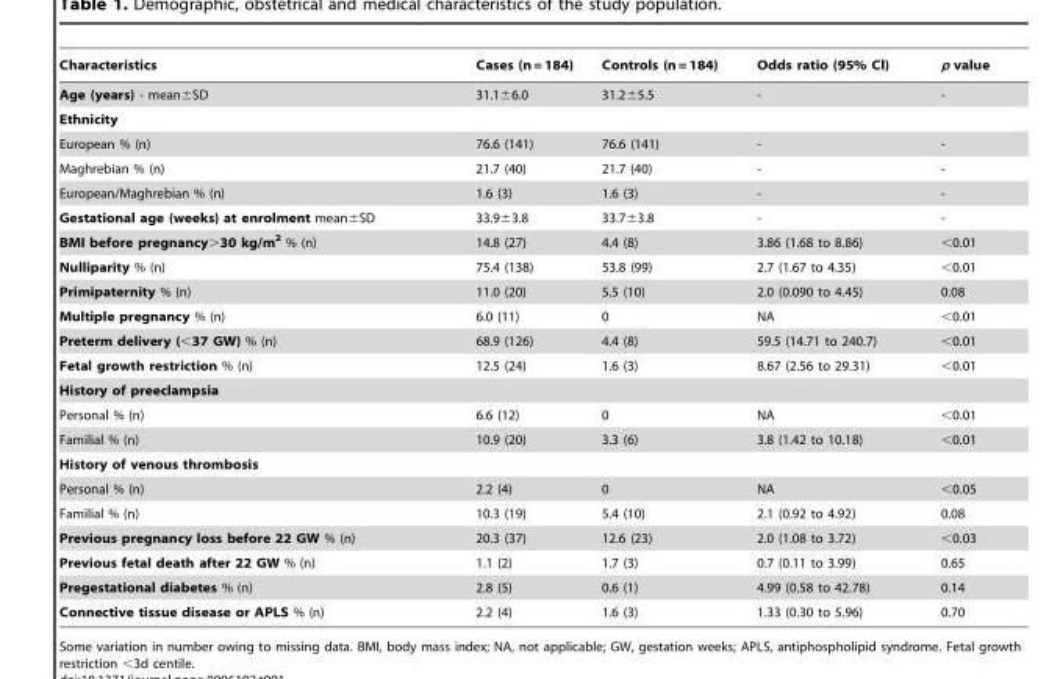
<table><thead><tr><td>Characteristics</td><td>Cases (n = 184)</td><td>Controls (n = 184)</td><td>Odds ratio (95% Cl)</td><td>p value</td></tr></thead><tbody><tr><td>Age (years) - mean±SD</td><td>31.1±6.0</td><td>31.2±5.5</td><td>-</td><td>-</td></tr><tr><td colspan="5">Ethnicity</td></tr><tr><td>European % (n)</td><td>76.6 (141)</td><td>76.6 (141)</td><td>-</td><td>-</td></tr><tr><td>Maghrebian % (n)</td><td>21.7 (40)</td><td>21.7 (40)</td><td>-</td><td>-</td></tr><tr><td>European/Maghrebian % (n)</td><td>1.6 (3)</td><td>1.6 (3)</td><td>-</td><td>-</td></tr><tr><td>Gestational age (weeks) at enrolment mean±SD</td><td>33.9±3.8</td><td>33.7±3.8</td><td>-</td><td>-</td></tr><tr><td>BMI before pregnancy&gt;30 kg/m<sup>2</sup> % (n)</td><td>14.8 (27)</td><td>4.4 (8)</td><td>3.86 (1.68 to 8.86)</td><td>&lt;0.01</td></tr><tr><td>Nulliparity % (n)</td><td>75.4 (138)</td><td>53.8 (99)</td><td>2.7 (1.67 to 4.35)</td><td>&lt;0.01</td></tr><tr><td>Primipaternity % (n)</td><td>11.0 (20)</td><td>5.5 (10)</td><td>2.0 (0.090 to 4.45)</td><td>0.08</td></tr><tr><td>Multiple pregnancy % (n)</td><td>6.0 (11)</td><td>0</td><td>NA</td><td>&lt;0.01</td></tr><tr><td>Preterm delivery (&lt;37 GW) % (n)</td><td>68.9 (126)</td><td>4.4 (8)</td><td>59.5 (14.71 to 240.7)</td><td>&lt;0.01</td></tr><tr><td>Fetal growth restriction % (n)</td><td>12.5 (24)</td><td>1.6 (3)</td><td>8.67 (2.56 to 29.31)</td><td>&lt;0.01</td></tr><tr><td colspan="5">History of preeclampsia</td></tr><tr><td>Personal % (n)</td><td>6.6 (12)</td><td>0</td><td>NA</td><td>&lt;0.01</td></tr><tr><td>Familial % (n)</td><td>10.9 (20)</td><td>3.3 (6)</td><td>3.8 (1.42 to 10.18)</td><td>&lt;0.01</td></tr><tr><td colspan="5">History of venous thrombosis</td></tr><tr><td>Personal % (n)</td><td>2.2 (4)</td><td>0</td><td>NA</td><td>&lt;0.05</td></tr><tr><td>Familial % (n)</td><td>10.3 (19)</td><td>5.4 (10)</td><td>2.1 (0.92 to 4.92)</td><td>0.08</td></tr><tr><td>Previous pregnancy loss before 22 GW % (n)</td><td>20.3 (37)</td><td>12.6 (23)</td><td>2.0 (1.08 to 3.72)</td><td>&lt;0.03</td></tr><tr><td>Previous fetal death after 22 GW % (n)</td><td>1.1 (2)</td><td>1.7 (3)</td><td>0.7 (0.11 to 3.99)</td><td>0.65</td></tr><tr><td>Pregestational diabetes % (n)</td><td>2.8 (5)</td><td>0.6 (1)</td><td>4.99 (0.58 to 42.78)</td><td>0.14</td></tr><tr><td>Connective tissue disease or APLS % (n)</td><td>2.2 (4)</td><td>1.6 (3)</td><td>1.33 (0.30 to 5.96)</td><td>0.70</td></tr></tbody></table>